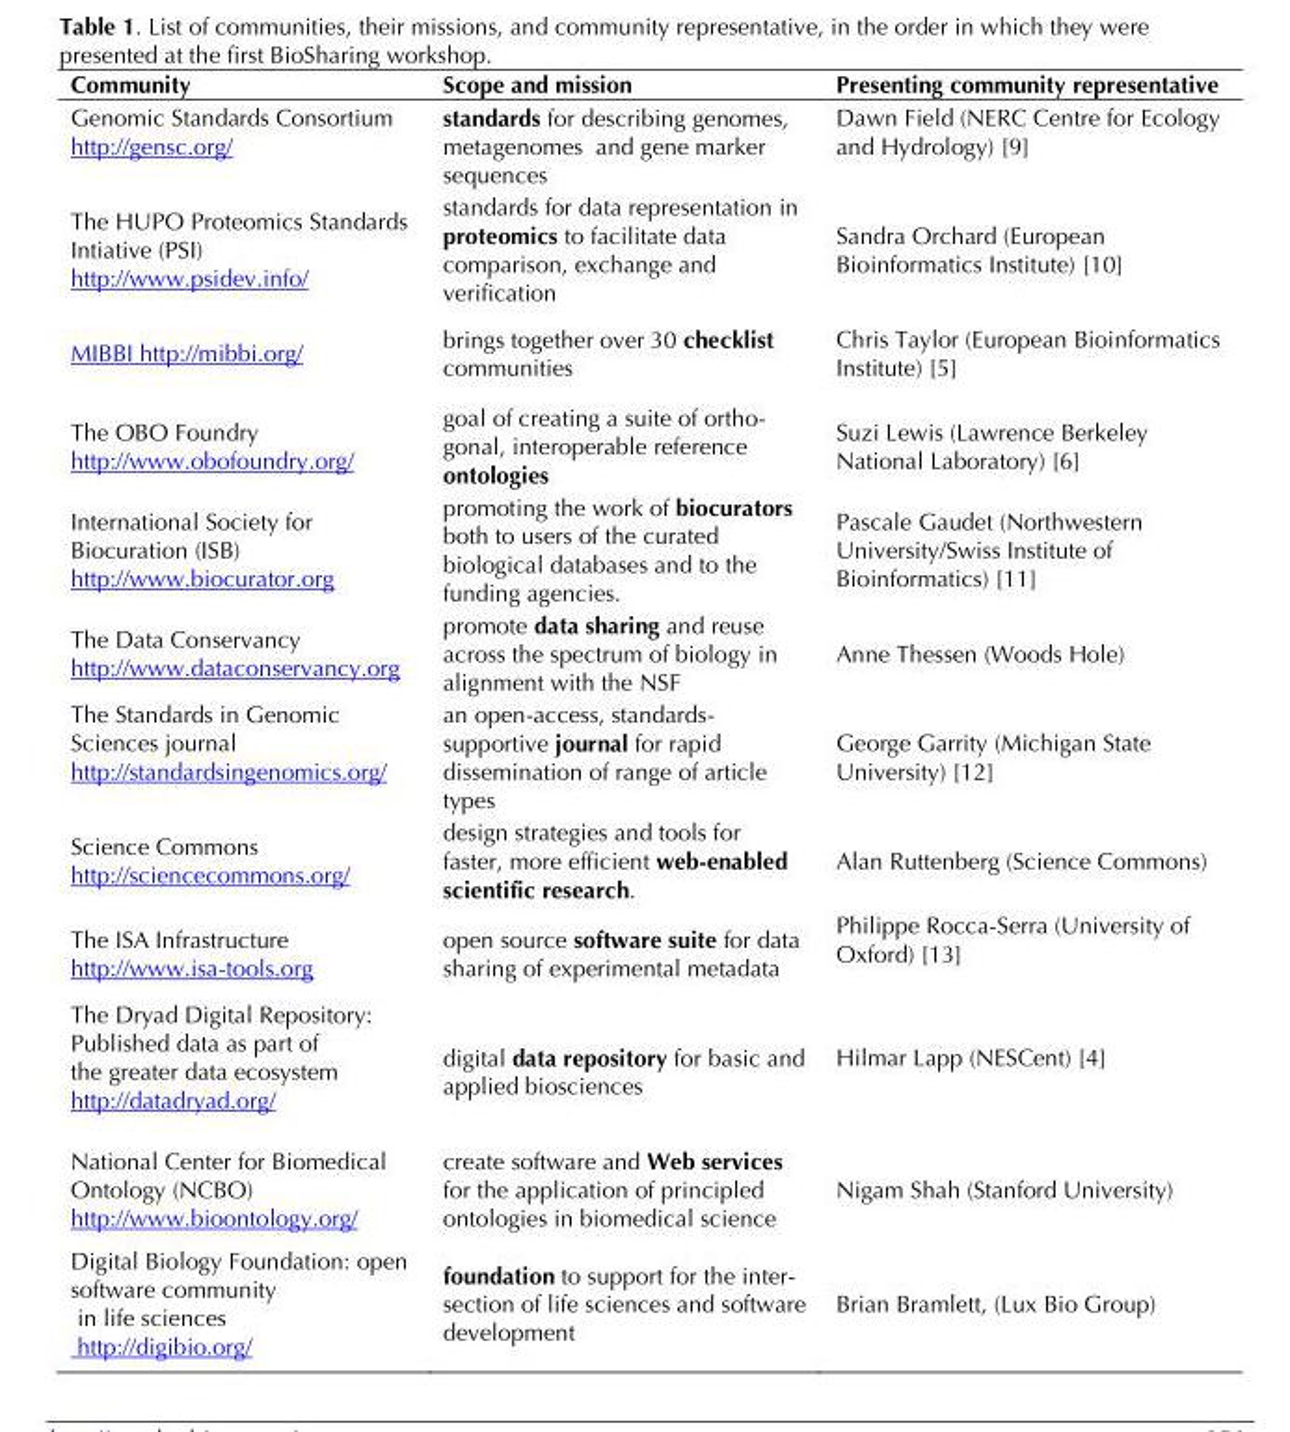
<table><thead><tr><td>Community</td><td>Scope and mission</td><td>Presenting community representative</td></tr></thead><tbody><tr><td>Genomic Standards Consortium http://gensc.org/</td><td>standards for describing genomes, metagenomes and gene marker sequences</td><td>Dawn Field (NERC Centre for Ecology and Hydrology) [9]</td></tr><tr><td>The HUPO Proteomics Standards Intiative (PSI) http://www.psidev.info/</td><td>standards for data representation in proteomics to facilitate data comparison, exchange and verification</td><td>Sandra Orchard (European Bioinformatics Institute) [10]</td></tr><tr><td>MIBBI http://mibbi.org/</td><td>brings together over 30 checklist communities</td><td>Chris Taylor (European Bioinformatics Institute) [5]</td></tr><tr><td>The OBO Foundry http://www.obofoundry.org/</td><td>goal of creating a suite of ortho- gonal, interoperable reference ontologies</td><td>Suzi Lewis (Lawrence Berkeley National Laboratory) [6]</td></tr><tr><td>International Society for Biocuration (ISB) http://www.biocurator.org</td><td>promoting the work of biocurators both to users of the curated biological databases and to the funding agencies.</td><td>Pascale Gaudet (Northwestern University/Swiss Institute of Bioinformatics) [11]</td></tr><tr><td>The Data Conservancy http://www.dataconservancy.org</td><td>promote data sharing and reuse across the spectrum of biology in alignment with the NSF</td><td>Anne Thessen (Woods Hole)</td></tr><tr><td>The Standards in Genomic Sciences journal http://standardsingenomics.org/</td><td>an open-access, standards- supportive journal for rapid dissemination of range of article types</td><td>George Garrity (Michigan State University) [12]</td></tr><tr><td>Science Commons http://sciencecommons.org/</td><td>design strategies and tools for faster, more efficient web-enabled scientific research.</td><td>Alan Ruttenberg (Science Commons)</td></tr><tr><td>The ISA Infrastructure http://www.isa-tools.org</td><td>open source software suite for data sharing of experimental metadata</td><td>Philippe Rocca-Serra (University of Oxford) [13]</td></tr><tr><td>The Dryad Digital Repository: Published data as part of the greater data ecosystem http://datadryad.org/</td><td>digital data repository for basic and applied biosciences</td><td>Hilmar Lapp (NESCent) [4]</td></tr><tr><td>National Center for Biomedical Ontology (NCBO) http://www.bioontology.org/</td><td>create software and Web services for the application of principled ontologies in biomedical science</td><td>Nigam Shah (Stanford University)</td></tr><tr><td>Digital Biology Foundation: open software community in life sciences http://digibio.org/</td><td>foundation to support for the inter- section of life sciences and software development</td><td>Brian Bramlett, (Lux Bio Group)</td></tr></tbody></table>